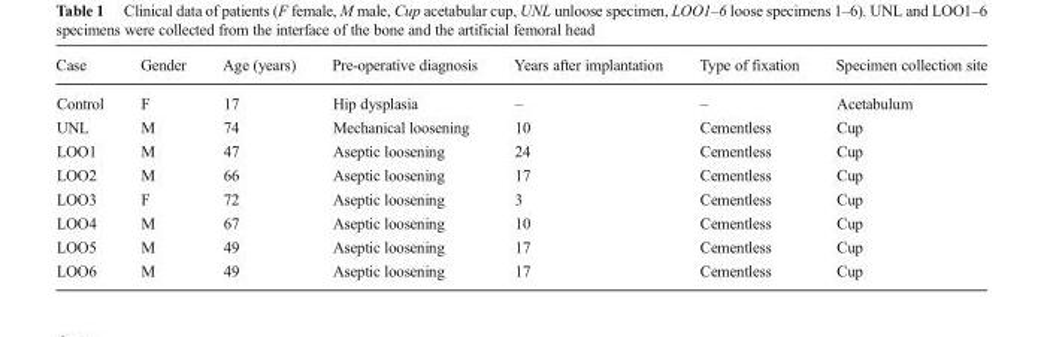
<table><thead><tr><td>Case</td><td>Gender</td><td>Age (years)</td><td>Pre-operative diagnosis</td><td>Years after implantation</td><td>Type of fixation</td><td>Specimen collection site</td></tr></thead><tbody><tr><td>Control</td><td>F</td><td>17</td><td>Hip dysplasia</td><td>–</td><td>–</td><td>Acetabulum</td></tr><tr><td>UNL</td><td>M</td><td>74</td><td>Mechanical loosening</td><td>10</td><td>Cementless</td><td>Cup</td></tr><tr><td>LOO1</td><td>M</td><td>47</td><td>Aseptic loosening</td><td>24</td><td>Cementless</td><td>Cup</td></tr><tr><td>LOO2</td><td>M</td><td>66</td><td>Aseptic loosening</td><td>17</td><td>Cementless</td><td>Cup</td></tr><tr><td>LOO3</td><td>F</td><td>72</td><td>Aseptic loosening</td><td>3</td><td>Cementless</td><td>Cup</td></tr><tr><td>LOO4</td><td>M</td><td>67</td><td>Aseptic loosening</td><td>10</td><td>Cementless</td><td>Cup</td></tr><tr><td>LOO5</td><td>M</td><td>49</td><td>Aseptic loosening</td><td>17</td><td>Cementless</td><td>Cup</td></tr><tr><td>LOO6</td><td>M</td><td>49</td><td>Aseptic loosening</td><td>17</td><td>Cementless</td><td>Cup</td></tr></tbody></table>